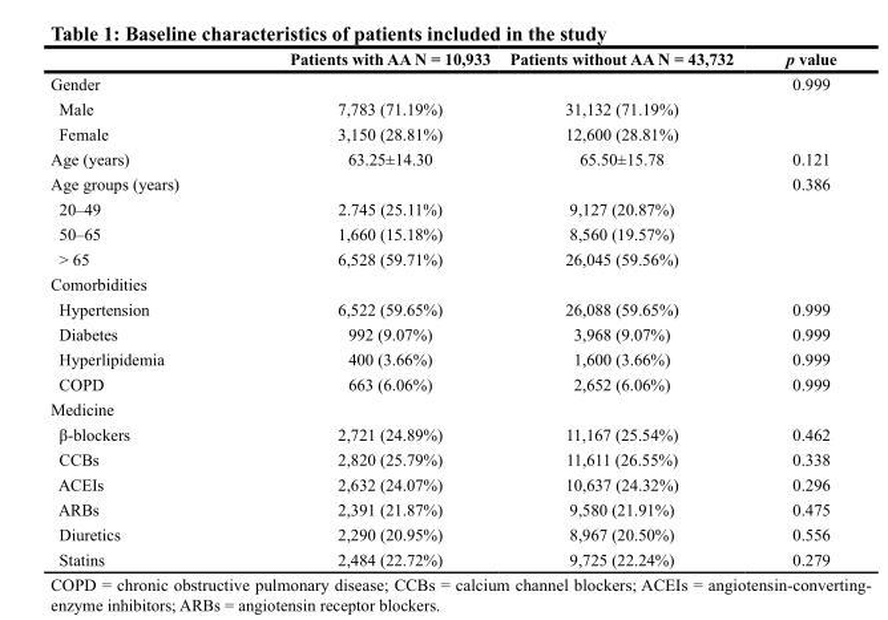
<table><thead><tr><td></td><td>Patients with AA N = 10,933</td><td>Patients without AA N = 43,732</td><td>p value</td></tr></thead><tbody><tr><td>Gender</td><td></td><td></td><td>0.999</td></tr><tr><td>Male</td><td>7,783 (71.19%)</td><td>31,132 (71.19%)</td><td></td></tr><tr><td>Female</td><td>3,150 (28.81%)</td><td>12,600 (28.81%)</td><td></td></tr><tr><td>Age (years)</td><td>63.25±14.30</td><td>65.50±15.78</td><td>0.121</td></tr><tr><td>Age groups (years)</td><td></td><td></td><td>0.386</td></tr><tr><td>20–49</td><td>2.745 (25.11%)</td><td>9,127 (20.87%)</td><td></td></tr><tr><td>50–65</td><td>1,660 (15.18%)</td><td>8,560 (19.57%)</td><td></td></tr><tr><td>&gt; 65</td><td>6,528 (59.71%)</td><td>26,045 (59.56%)</td><td></td></tr><tr><td colspan="4">Comorbidities</td></tr><tr><td>Hypertension</td><td>6,522 (59.65%)</td><td>26,088 (59.65%)</td><td>0.999</td></tr><tr><td>Diabetes</td><td>992 (9.07%)</td><td>3,968 (9.07%)</td><td>0.999</td></tr><tr><td>Hyperlipidemia</td><td>400 (3.66%)</td><td>1,600 (3.66%)</td><td>0.999</td></tr><tr><td>COPD</td><td>663 (6.06%)</td><td>2,652 (6.06%)</td><td>0.999</td></tr><tr><td colspan="4">Medicine</td></tr><tr><td>β-blockers</td><td>2,721 (24.89%)</td><td>11,167 (25.54%)</td><td>0.462</td></tr><tr><td>CCBs</td><td>2,820 (25.79%)</td><td>11,611 (26.55%)</td><td>0.338</td></tr><tr><td>ACEIs</td><td>2,632 (24.07%)</td><td>10,637 (24.32%)</td><td>0.296</td></tr><tr><td>ARBs</td><td>2,391 (21.87%)</td><td>9,580 (21.91%)</td><td>0.475</td></tr><tr><td>Diuretics</td><td>2,290 (20.95%)</td><td>8,967 (20.50%)</td><td>0.556</td></tr><tr><td>Statins</td><td>2,484 (22.72%)</td><td>9,725 (22.24%)</td><td>0.279</td></tr></tbody></table>